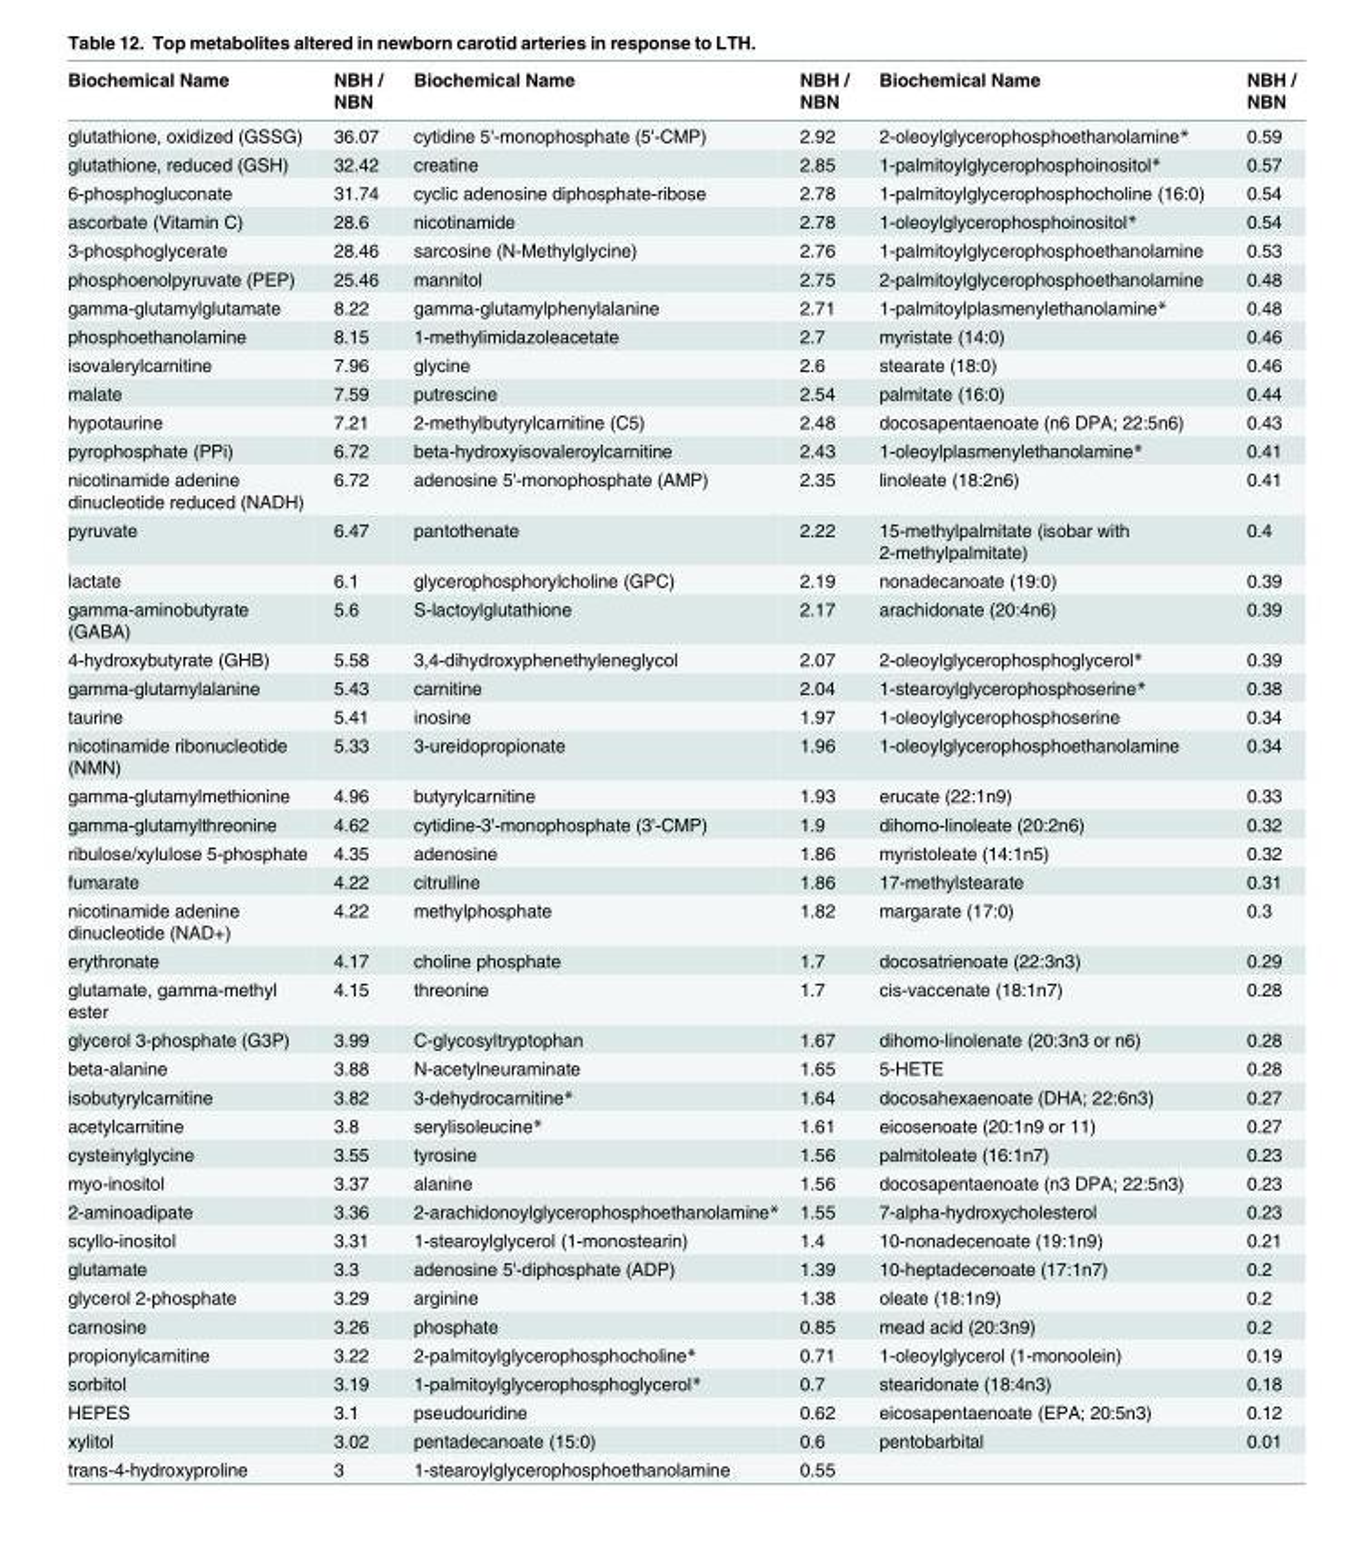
<table><thead><tr><td>Biochemical Name</td><td>NBH / NBN</td><td>Biochemical Name</td><td>NBH / NBN</td><td>Biochemical Name</td><td>NBH / NBN</td></tr></thead><tbody><tr><td>glutathione, oxidized (GSSG)</td><td>36.07</td><td>cytidine 5&#x27;-monophosphate (5&#x27;-CMP)</td><td>2.92</td><td>2-oleoylglycerophosphoethanolamine*</td><td>0.59</td></tr><tr><td>glutathione, reduced (GSH)</td><td>32.42</td><td>creatine</td><td>2.85</td><td>1-palmitoylglycerophosphoinositol*</td><td>0.57</td></tr><tr><td>6-phosphogluconate</td><td>31.74</td><td>cyclic adenosine diphosphate-ribose</td><td>2.78</td><td>1-palmitoylglycerophosphocholine (16:0)</td><td>0.54</td></tr><tr><td>ascorbate (Vitamin C)</td><td>28.6</td><td>nicotinamide</td><td>2.78</td><td>1-oleoylglycerophosphoinositol*</td><td>0.54</td></tr><tr><td>3-phosphoglycerate</td><td>28.46</td><td>sarcosine (N-Methylglycine)</td><td>2.76</td><td>1-palmitoylglycerophosphoethanolamine</td><td>0.53</td></tr><tr><td>phosphoenolpyruvate (PEP)</td><td>25.46</td><td>mannitol</td><td>2.75</td><td>2-palmitoylglycerophosphoethanolamine</td><td>0.48</td></tr><tr><td>gamma-glutamylglutamate</td><td>8.22</td><td>gamma-glutamylphenylalanine</td><td>2.71</td><td>1-palmitoylplasmenylethanolamine*</td><td>0.48</td></tr><tr><td>phosphoethanolamine</td><td>8.15</td><td>1-methylimidazoleacetate</td><td>2.7</td><td>myristate (14:0)</td><td>0.46</td></tr><tr><td>isovalerylcarnitine</td><td>7.96</td><td>glycine</td><td>2.6</td><td>stearate (18:0)</td><td>0.46</td></tr><tr><td>malate</td><td>7.59</td><td>putrescine</td><td>2.54</td><td>palmitate (16:0)</td><td>0.44</td></tr><tr><td>hypotaurine</td><td>7.21</td><td>2-methylbutyrylcarnitine (C5)</td><td>2.48</td><td>docosapentaenoate (n6 DPA; 22:5n6)</td><td>0.43</td></tr><tr><td>pyrophosphate (PPi)</td><td>6.72</td><td>beta-hydroxyisovaleroylcarnitine</td><td>2.43</td><td>1-oleoylplasmenylethanolamine*</td><td>0.41</td></tr><tr><td>nicotinamide adenine dinucleotide reduced (NADH)</td><td>6.72</td><td>adenosine 5&#x27;-monophosphate (AMP)</td><td>2.35</td><td>linoleate (18:2n6)</td><td>0.41</td></tr><tr><td>pyruvate</td><td>6.47</td><td>pantothenate</td><td>2.22</td><td>15-methylpalmitate (isobar with 2-methylpalmitate)</td><td>0.4</td></tr><tr><td>lactate</td><td>6.1</td><td>glycerophosphorylcholine (GPC)</td><td>2.19</td><td>nonadecanoate (19:0)</td><td>0.39</td></tr><tr><td>gamma-aminobutyrate (GABA)</td><td>5.6</td><td>S-lactoylglutathione</td><td>2.17</td><td>arachidonate (20:4n6)</td><td>0.39</td></tr><tr><td>4-hydroxybutyrate (GHB)</td><td>5.58</td><td>3,4-dihydroxyphenethyleneglycol</td><td>2.07</td><td>2-oleoylglycerophosphoglycerol*</td><td>0.39</td></tr><tr><td>gamma-glutamylalanine</td><td>5.43</td><td>carnitine</td><td>2.04</td><td>1-stearoylglycerophosphoserine*</td><td>0.38</td></tr><tr><td>taurine</td><td>5.41</td><td>inosine</td><td>1.97</td><td>1-oleoylglycerophosphoserine</td><td>0.34</td></tr><tr><td>nicotinamide ribonucleotide (NMN)</td><td>5.33</td><td>3-ureidopropionate</td><td>1.96</td><td>1-oleoylglycerophosphoethanolamine</td><td>0.34</td></tr><tr><td>gamma-glutamylmethionine</td><td>4.96</td><td>butyrylcarnitine</td><td>1.93</td><td>erucate (22:1n9)</td><td>0.33</td></tr><tr><td>gamma-glutamylthreonine</td><td>4.62</td><td>cytidine-3&#x27;-monophosphate (3&#x27;-CMP)</td><td>1.9</td><td>dihomo-linoleate (20:2n6)</td><td>0.32</td></tr><tr><td>ribulose/xylulose 5-phosphate</td><td>4.35</td><td>adenosine</td><td>1.86</td><td>myristoleate (14:1n5)</td><td>0.32</td></tr><tr><td>fumarate</td><td>4.22</td><td>citrulline</td><td>1.86</td><td>17-methylstearate</td><td>0.31</td></tr><tr><td>nicotinamide adenine dinucleotide (NAD+)</td><td>4.22</td><td>methylphosphate</td><td>1.82</td><td>margarate (17:0)</td><td>0.3</td></tr><tr><td>erythronate</td><td>4.17</td><td>choline phosphate</td><td>1.7</td><td>docosatrienoate (22:3n3)</td><td>0.29</td></tr><tr><td>glutamate, gamma-methyl ester</td><td>4.15</td><td>threonine</td><td>1.7</td><td>cis-vaccenate (18:1n7)</td><td>0.28</td></tr><tr><td>glycerol 3-phosphate (G3P)</td><td>3.99</td><td>C-glycosyltryptophan</td><td>1.67</td><td>dihomo-linolenate (20:3n3 or n6)</td><td>0.28</td></tr><tr><td>beta-alanine</td><td>3.88</td><td>N-acetylneuraminate</td><td>1.65</td><td>5-HETE</td><td>0.28</td></tr><tr><td>isobutyrylcarnitine</td><td>3.82</td><td>3-dehydrocarnitine*</td><td>1.64</td><td>docosahexaenoate (DHA; 22:6n3)</td><td>0.27</td></tr><tr><td>acetylcarnitine</td><td>3.8</td><td>serylisoleucine*</td><td>1.61</td><td>eicosenoate (20:1n9 or 11)</td><td>0.27</td></tr><tr><td>cysteinylglycine</td><td>3.55</td><td>tyrosine</td><td>1.56</td><td>palmitoleate (16:1n7)</td><td>0.23</td></tr><tr><td>myo-inositol</td><td>3.37</td><td>alanine</td><td>1.56</td><td>docosapentaenoate (n3 DPA; 22:5n3)</td><td>0.23</td></tr><tr><td>2-aminoadipate</td><td>3.36</td><td>2-arachidonoylglycerophosphoethanolamine*</td><td>1.55</td><td>7-alpha-hydroxycholesterol</td><td>0.23</td></tr><tr><td>scyllo-inositol</td><td>3.31</td><td>1-stearoylglycerol (1-monostearin)</td><td>1.4</td><td>10-nonadecenoate (19:1n9)</td><td>0.21</td></tr><tr><td>glutamate</td><td>3.3</td><td>adenosine 5&#x27;-diphosphate (ADP)</td><td>1.39</td><td>10-heptadecenoate (17:1n7)</td><td>0.2</td></tr><tr><td>glycerol 2-phosphate</td><td>3.29</td><td>arginine</td><td>1.38</td><td>oleate (18:1n9)</td><td>0.2</td></tr><tr><td>carnosine</td><td>3.26</td><td>phosphate</td><td>0.85</td><td>mead acid (20:3n9)</td><td>0.2</td></tr><tr><td>propionylcarnitine</td><td>3.22</td><td>2-palmitoylglycerophosphocholine*</td><td>0.71</td><td>1-oleoylglycerol (1-monoolein)</td><td>0.19</td></tr><tr><td>sorbitol</td><td>3.19</td><td>1-palmitoylglycerophosphoglycerol*</td><td>0.7</td><td>stearidonate (18:4n3)</td><td>0.18</td></tr><tr><td>HEPES</td><td>3.1</td><td>pseudouridine</td><td>0.62</td><td>eicosapentaenoate (EPA; 20:5n3)</td><td>0.12</td></tr><tr><td>xylitol</td><td>3.02</td><td>pentadecanoate (15:0)</td><td>0.6</td><td>pentobarbital</td><td>0.01</td></tr><tr><td>trans-4-hydroxyproline</td><td>3</td><td>1-stearoylglycerophosphoethanolamine</td><td>0.55</td><td></td><td></td></tr></tbody></table>